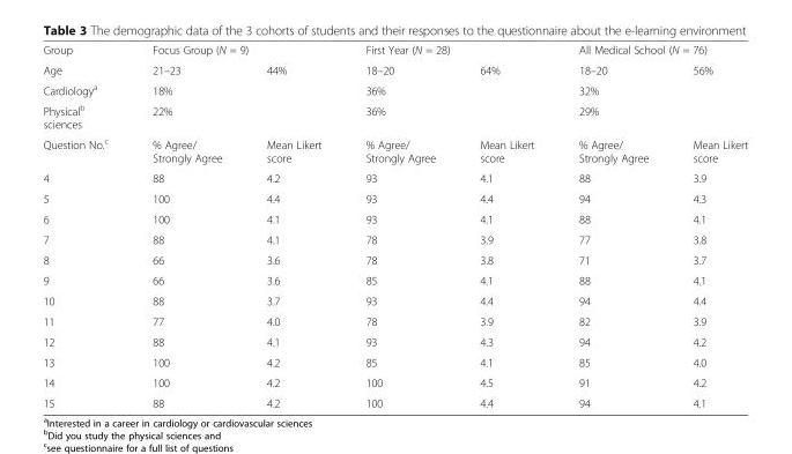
<table><tbody><tr><td>Group</td><td colspan="2">Focus Group (N = 9)</td><td colspan="2">First Year (N = 28)</td><td colspan="2">All Medical School (N = 76)</td></tr><tr><td>Age</td><td>21–23</td><td>44%</td><td>18–20</td><td>64%</td><td>18–20</td><td>56%</td></tr><tr><td>Cardiology<sup>a</sup></td><td colspan="2">18%</td><td colspan="2">36%</td><td colspan="2">32%</td></tr><tr><td>Physical<sup>b</sup> sciences</td><td colspan="2">22%</td><td colspan="2">36%</td><td colspan="2">29%</td></tr><tr><td>Question No.<sup>c</sup></td><td>% Agree/ Strongly Agree</td><td>Mean Likert score</td><td>% Agree/ Strongly Agree</td><td>Mean Likert score</td><td>% Agree/ Strongly Agree</td><td>Mean Likert score</td></tr><tr><td>4</td><td>88</td><td>4.2</td><td>93</td><td>4.1</td><td>88</td><td>3.9</td></tr><tr><td>5</td><td>100</td><td>4.4</td><td>93</td><td>4.4</td><td>94</td><td>4.3</td></tr><tr><td>6</td><td>100</td><td>4.1</td><td>93</td><td>4.1</td><td>88</td><td>4.1</td></tr><tr><td>7</td><td>88</td><td>4.1</td><td>78</td><td>3.9</td><td>77</td><td>3.8</td></tr><tr><td>8</td><td>66</td><td>3.6</td><td>78</td><td>3.8</td><td>71</td><td>3.7</td></tr><tr><td>9</td><td>66</td><td>3.6</td><td>85</td><td>4.1</td><td>88</td><td>4.1</td></tr><tr><td>10</td><td>88</td><td>3.7</td><td>93</td><td>4.4</td><td>94</td><td>4.4</td></tr><tr><td>11</td><td>77</td><td>4.0</td><td>78</td><td>3.9</td><td>82</td><td>3.9</td></tr><tr><td>12</td><td>88</td><td>4.1</td><td>93</td><td>4.3</td><td>94</td><td>4.2</td></tr><tr><td>13</td><td>100</td><td>4.2</td><td>85</td><td>4.1</td><td>85</td><td>4.0</td></tr><tr><td>14</td><td>100</td><td>4.2</td><td>100</td><td>4.5</td><td>91</td><td>4.2</td></tr><tr><td>15</td><td>88</td><td>4.2</td><td>100</td><td>4.4</td><td>94</td><td>4.1</td></tr></tbody></table>